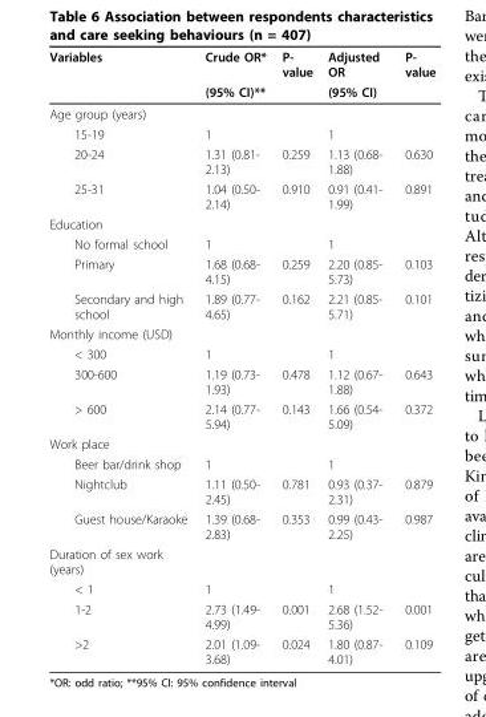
<table><thead><tr><td rowspan="2">Variables</td><td rowspan="2">Crude OR* (95% CI)**</td><td rowspan="2">P- value</td><td rowspan="2">Adjusted OR (95% CI)</td><td rowspan="2">P- value</td></tr><tr></tr></thead><tbody><tr><td colspan="5">Age group (years)</td></tr><tr><td>15-19</td><td>1</td><td></td><td>1</td><td></td></tr><tr><td>20-24</td><td>1.31 (0.81- 2.13)</td><td>0.259</td><td>1.13 (0.68- 1.88)</td><td>0.630</td></tr><tr><td>25-31</td><td>1.04 (0.50- 2.14)</td><td>0.910</td><td>0.91 (0.41- 1.99)</td><td>0.891</td></tr><tr><td colspan="5">Education</td></tr><tr><td>No formal school</td><td>1</td><td></td><td>1</td><td></td></tr><tr><td>Primary</td><td>1.68 (0.68- 4.15)</td><td>0.259</td><td>2.20 (0.85- 5.73)</td><td>0.103</td></tr><tr><td>Secondary and high school</td><td>1.89 (0.77- 4.65)</td><td>0.162</td><td>2.21 (0.85- 5.71)</td><td>0.101</td></tr><tr><td colspan="5">Monthly income (USD)</td></tr><tr><td>&lt; 300</td><td>1</td><td></td><td>1</td><td></td></tr><tr><td>300-600</td><td>1.19 (0.73- 1.93)</td><td>0.478</td><td>1.12 (0.67- 1.88)</td><td>0.643</td></tr><tr><td>&gt; 600</td><td>2.14 (0.77- 5.94)</td><td>0.143</td><td>1.66 (0.54- 5.09)</td><td>0.372</td></tr><tr><td colspan="5">Work place</td></tr><tr><td>Beer bar/drink shop</td><td>1</td><td></td><td>1</td><td></td></tr><tr><td>Nightclub</td><td>1.11 (0.50- 2.45)</td><td>0.781</td><td>0.93 (0.37- 2.31)</td><td>0.879</td></tr><tr><td>Guest house/Karaoke</td><td>1.39 (0.68- 2.83)</td><td>0.353</td><td>0.99 (0.43- 2.25)</td><td>0.987</td></tr><tr><td colspan="5">Duration of sex work (years)</td></tr><tr><td>&lt; 1</td><td>1</td><td></td><td>1</td><td></td></tr><tr><td>1-2</td><td>2.73 (1.49- 4.99)</td><td>0.001</td><td>2.68 (1.52- 5.36)</td><td>0.001</td></tr><tr><td>&gt;2</td><td>2.01 (1.09- 3.68)</td><td>0.024</td><td>1.80 (0.87- 4.01)</td><td>0.109</td></tr></tbody></table>